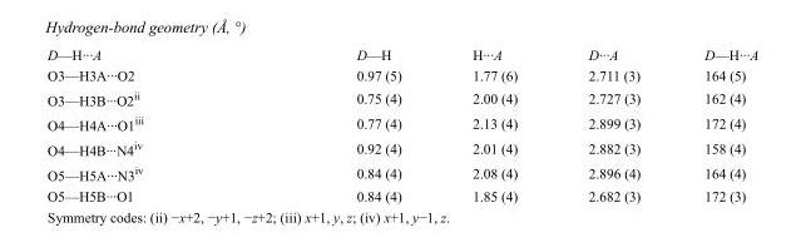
<table><tbody><tr><td>D—H···A</td><td>D—H</td><td>H···A</td><td>D···A</td><td>D—H···A</td></tr><tr><td>O3—H3A···O2</td><td>0.97 (5)</td><td>1.77 (6)</td><td>2.711 (3)</td><td>164 (5)</td></tr><tr><td>O3—H3B···O2<sup>ii</sup></td><td>0.75 (4)</td><td>2.00 (4)</td><td>2.727 (3)</td><td>162 (4)</td></tr><tr><td>O4—H4A···O1<sup>iii</sup></td><td>0.77 (4)</td><td>2.13 (4)</td><td>2.899 (3)</td><td>172 (4)</td></tr><tr><td>O4—H4B···N4<sup>iv</sup></td><td>0.92 (4)</td><td>2.01 (4)</td><td>2.882 (3)</td><td>158 (4)</td></tr><tr><td>O5—H5A···N3<sup>iv</sup></td><td>0.84 (4)</td><td>2.08 (4)</td><td>2.896 (4)</td><td>164 (4)</td></tr><tr><td>O5—H5B···O1</td><td>0.84 (4)</td><td>1.85 (4)</td><td>2.682 (3)</td><td>172 (3)</td></tr></tbody></table>